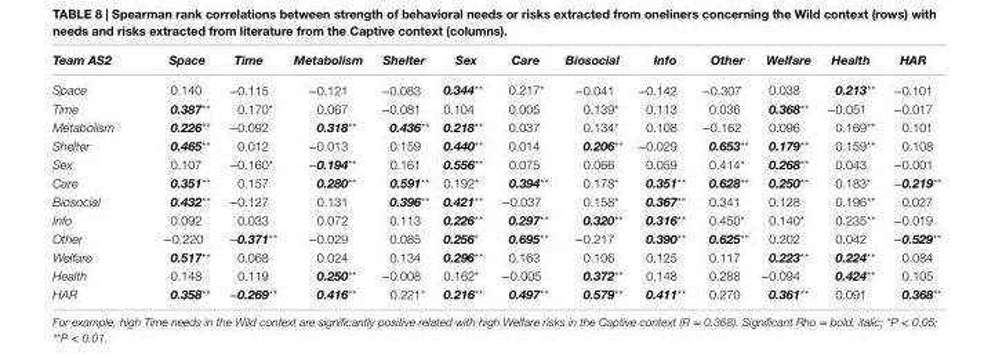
<table><thead><tr><td>Team AS2</td><td>Space</td><td>Time</td><td>Metabolism</td><td>Shelter</td><td>Sex</td><td>Care</td><td>Biosocial</td><td>Info</td><td>Other</td><td>Welfare</td><td>Health</td><td>HAR</td></tr></thead><tbody><tr><td>Space</td><td>0.140</td><td>−0.115</td><td>−0.121</td><td>−0.083</td><td>0.344**</td><td>0.217*</td><td>−0.041</td><td>−0.142</td><td>−0.307</td><td>0.038</td><td>0.213**</td><td>−0.101</td></tr><tr><td>Time</td><td>0.387**</td><td>0.170*</td><td>0.067</td><td>−0.081</td><td>0.104</td><td>0.005</td><td>0.139*</td><td>0.113</td><td>0.036</td><td>0.368**</td><td>−0.051</td><td>−0.017</td></tr><tr><td>Metabolism</td><td>0.226**</td><td>−0.092</td><td>0.318**</td><td>0.436**</td><td>0.218**</td><td>0.037</td><td>0.134*</td><td>0.108</td><td>−0.162</td><td>0.096</td><td>0.169**</td><td>0.101</td></tr><tr><td>Shelter</td><td>0.465**</td><td>0.012</td><td>−0.013</td><td>0.159</td><td>0.440**</td><td>0.014</td><td>0.206**</td><td>−0.029</td><td>0.653**</td><td>0.179**</td><td>0.159**</td><td>0.108</td></tr><tr><td>Sex</td><td>0.107</td><td>−0.160*</td><td>−0.194**</td><td>0.161</td><td>0.556**</td><td>0.075</td><td>0.066</td><td>0.059</td><td>0.414*</td><td>0.268**</td><td>0.043</td><td>−0.001</td></tr><tr><td>Care</td><td>0.351**</td><td>0.157</td><td>0.280**</td><td>0.591**</td><td>0.192*</td><td>0.394**</td><td>0.178*</td><td>0.351**</td><td>0.628**</td><td>0.250**</td><td>0.183*</td><td>−0.219**</td></tr><tr><td>Biosocial</td><td>0.432**</td><td>−0.127</td><td>0.131</td><td>0.396**</td><td>0.421**</td><td>−0.037</td><td>0.158*</td><td>0.367**</td><td>0.341</td><td>0.128</td><td>0.196**</td><td>0.027</td></tr><tr><td>Info</td><td>0.092</td><td>0.033</td><td>0.072</td><td>0.113</td><td>0.226**</td><td>0.297**</td><td>0.320**</td><td>0.316**</td><td>0.450*</td><td>0.140*</td><td>0.235**</td><td>−0.019</td></tr><tr><td>Other</td><td>−0.220</td><td>−0.371**</td><td>−0.029</td><td>0.085</td><td>0.256*</td><td>0.695**</td><td>−0.217</td><td>0.390**</td><td>0.625**</td><td>0.202</td><td>0.042</td><td>−0.529**</td></tr><tr><td>Welfare</td><td>0.517**</td><td>0.068</td><td>0.024</td><td>0.134</td><td>0.296**</td><td>0.163</td><td>0.106</td><td>0.125</td><td>0.117</td><td>0.223**</td><td>0.224**</td><td>0.084</td></tr><tr><td>Health</td><td>0.148</td><td>0.119</td><td>0.250**</td><td>−0.008</td><td>0.162*</td><td>−0.005</td><td>0.372**</td><td>0.148</td><td>0.288</td><td>−0.094</td><td>0.424**</td><td>0.105</td></tr><tr><td>HAR</td><td>0.358**</td><td>−0.269**</td><td>0.416**</td><td>0.221*</td><td>0.216**</td><td>0.497**</td><td>0.579**</td><td>0.411**</td><td>0.270</td><td>0.361**</td><td>0.091</td><td>0.368**</td></tr></tbody></table>